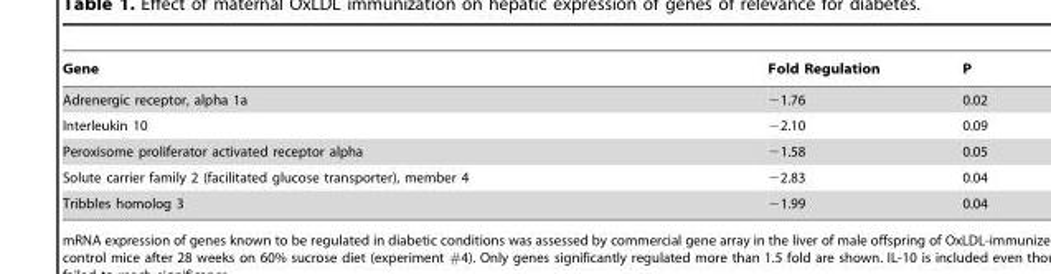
<table><thead><tr><td>Gene</td><td>Fold Regulation</td><td>P</td></tr></thead><tbody><tr><td>Adrenergic receptor, alpha 1a</td><td>−1.76</td><td>0.02</td></tr><tr><td>Interleukin 10</td><td>−2.10</td><td>0.09</td></tr><tr><td>Peroxisome proliferator activated receptor alpha</td><td>−1.58</td><td>0.05</td></tr><tr><td>Solute carrier family 2 (facilitated glucose transporter), member 4</td><td>−2.83</td><td>0.04</td></tr><tr><td>Tribbles homolog 3</td><td>−1.99</td><td>0.04</td></tr></tbody></table>